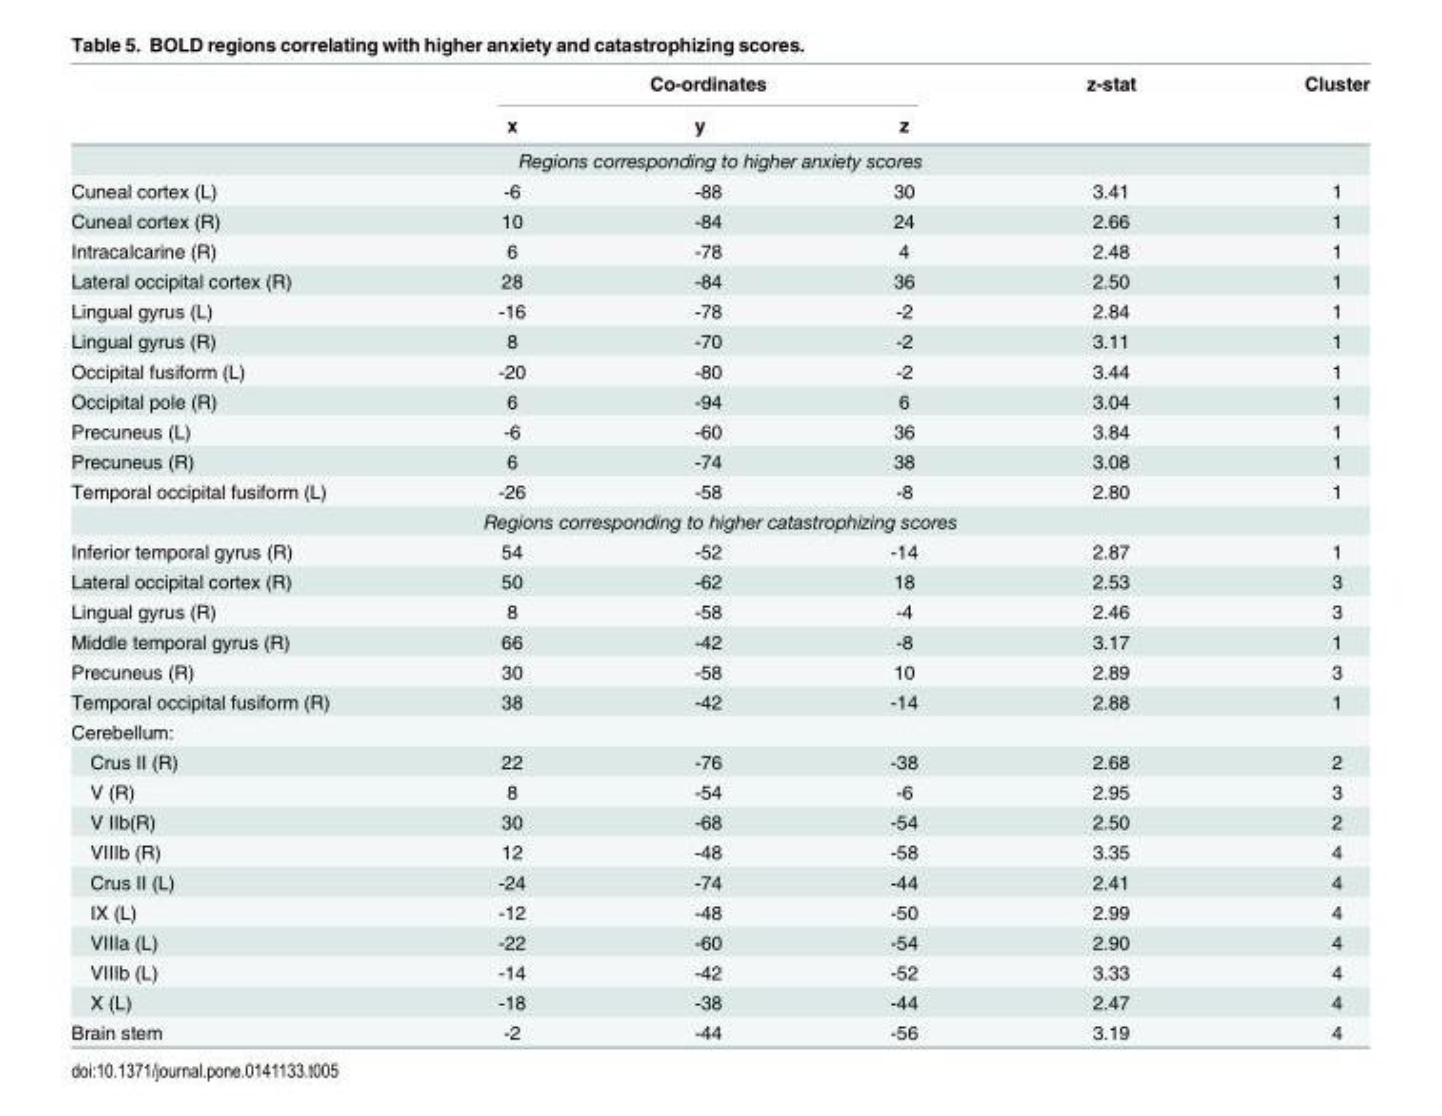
<table><thead><tr><td rowspan="2"></td><td colspan="3">Co-ordinates</td><td rowspan="2">z-stat</td><td rowspan="2">Cluster</td></tr><tr><td>x</td><td>y</td><td>z</td></tr></thead><tbody><tr><td colspan="6">Regions corresponding to higher anxiety scores</td></tr><tr><td>Cuneal cortex (L)</td><td>-6</td><td>-88</td><td>30</td><td>3.41</td><td>1</td></tr><tr><td>Cuneal cortex (R)</td><td>10</td><td>-84</td><td>24</td><td>2.66</td><td>1</td></tr><tr><td>Intracalcarine (R)</td><td>6</td><td>-78</td><td>4</td><td>2.48</td><td>1</td></tr><tr><td>Lateral occipital cortex (R)</td><td>28</td><td>-84</td><td>36</td><td>2.50</td><td>1</td></tr><tr><td>Lingual gyrus (L)</td><td>-16</td><td>-78</td><td>-2</td><td>2.84</td><td>1</td></tr><tr><td>Lingual gyrus (R)</td><td>8</td><td>-70</td><td>-2</td><td>3.11</td><td>1</td></tr><tr><td>Occipital fusiform (L)</td><td>-20</td><td>-80</td><td>-2</td><td>3.44</td><td>1</td></tr><tr><td>Occipital pole (R)</td><td>6</td><td>-94</td><td>6</td><td>3.04</td><td>1</td></tr><tr><td>Precuneus (L)</td><td>-6</td><td>-60</td><td>36</td><td>3.84</td><td>1</td></tr><tr><td>Precuneus (R)</td><td>6</td><td>-74</td><td>38</td><td>3.08</td><td>1</td></tr><tr><td>Temporal occipital fusiform (L)</td><td>-26</td><td>-58</td><td>-8</td><td>2.80</td><td>1</td></tr><tr><td colspan="6">Regions corresponding to higher catastrophizing scores</td></tr><tr><td>Inferior temporal gyrus (R)</td><td>54</td><td>-52</td><td>-14</td><td>2.87</td><td>1</td></tr><tr><td>Lateral occipital cortex (R)</td><td>50</td><td>-62</td><td>18</td><td>2.53</td><td>3</td></tr><tr><td>Lingual gyrus (R)</td><td>8</td><td>-58</td><td>-4</td><td>2.46</td><td>3</td></tr><tr><td>Middle temporal gyrus (R)</td><td>66</td><td>-42</td><td>-8</td><td>3.17</td><td>1</td></tr><tr><td>Precuneus (R)</td><td>30</td><td>-58</td><td>10</td><td>2.89</td><td>3</td></tr><tr><td>Temporal occipital fusiform (R)</td><td>38</td><td>-42</td><td>-14</td><td>2.88</td><td>1</td></tr><tr><td colspan="6">Cerebellum:</td></tr><tr><td>Crus II (R)</td><td>22</td><td>-76</td><td>-38</td><td>2.68</td><td>2</td></tr><tr><td>V (R)</td><td>8</td><td>-54</td><td>-6</td><td>2.95</td><td>3</td></tr><tr><td>V IIb(R)</td><td>30</td><td>-68</td><td>-54</td><td>2.50</td><td>2</td></tr><tr><td>VIIIb (R)</td><td>12</td><td>-48</td><td>-58</td><td>3.35</td><td>4</td></tr><tr><td>Crus II (L)</td><td>-24</td><td>-74</td><td>-44</td><td>2.41</td><td>4</td></tr><tr><td>IX (L)</td><td>-12</td><td>-48</td><td>-50</td><td>2.99</td><td>4</td></tr><tr><td>VIIIa (L)</td><td>-22</td><td>-60</td><td>-54</td><td>2.90</td><td>4</td></tr><tr><td>VIIIb (L)</td><td>-14</td><td>-42</td><td>-52</td><td>3.33</td><td>4</td></tr><tr><td>X (L)</td><td>-18</td><td>-38</td><td>-44</td><td>2.47</td><td>4</td></tr><tr><td>Brain stem</td><td>-2</td><td>-44</td><td>-56</td><td>3.19</td><td>4</td></tr></tbody></table>